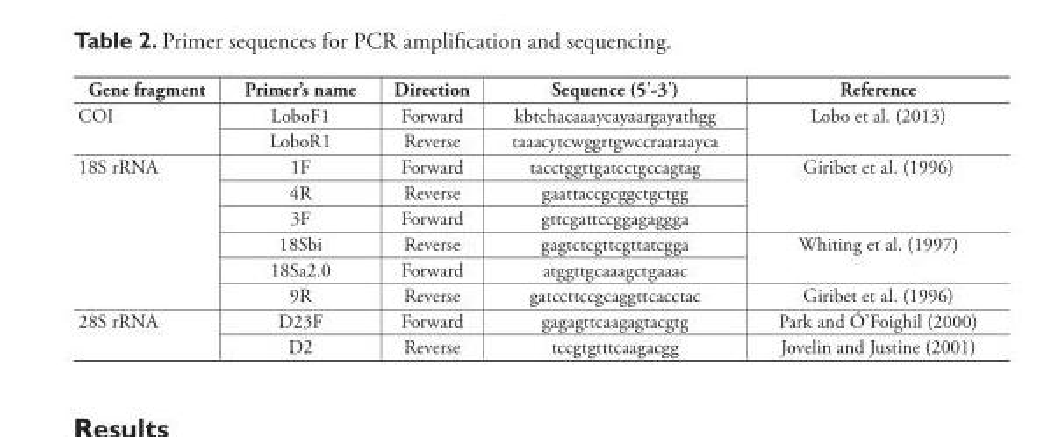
<table><thead><tr><td>Gene fragment</td><td>Primer’s name</td><td>Direction</td><td>Sequence (5&#x27;-3&#x27;)</td><td>Reference</td></tr></thead><tbody><tr><td rowspan="2">COI</td><td>LoboF1</td><td>Forward</td><td>kbtchacaaaycayaargayathgg</td><td rowspan="2">Lobo et al. (2013)</td></tr><tr><td>LoboR1</td><td>Reverse</td><td>taaacytcwggrtgwccraaraayca</td></tr><tr><td rowspan="6">18S rRNA</td><td>1F</td><td>Forward</td><td>tacctggttgatcctgccagtag</td><td rowspan="3">Giribet et al. (1996)</td></tr><tr><td>4R</td><td>Reverse</td><td>gaattaccgcggctgctgg</td></tr><tr><td>3F</td><td>Forward</td><td>gttcgattccggagaggga</td></tr><tr><td>18Sbi</td><td>Reverse</td><td>gagtctcgttcgttatcgga</td><td rowspan="2">Whiting et al. (1997)</td></tr><tr><td>18Sa2.0</td><td>Forward</td><td>atggttgcaaagctgaaac</td></tr><tr><td>9R</td><td>Reverse</td><td>gatccttccgcaggttcacctac</td><td>Giribet et al. (1996)</td></tr><tr><td rowspan="2">28S rRNA</td><td>D23F</td><td>Forward</td><td>gagagttcaagagtacgtg</td><td>Park and Ó’Foighil (2000)</td></tr><tr><td>D2</td><td>Reverse</td><td>tccgtgtttcaagacgg</td><td>Jovelin and Justine (2001)</td></tr></tbody></table>